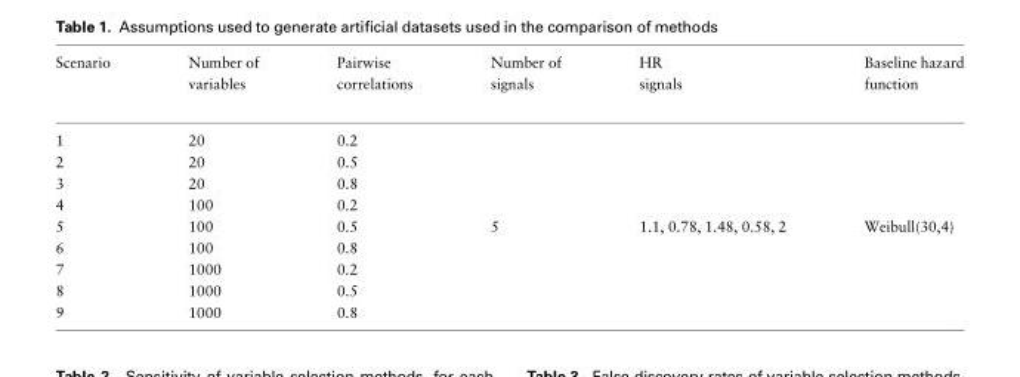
<table><thead><tr><td>Scenario</td><td>Number of variables</td><td>Pairwise correlations</td><td>Number of signals</td><td>HR signals</td><td>Baseline hazard function</td></tr></thead><tbody><tr><td>1</td><td>20</td><td>0.2</td><td rowspan="4"></td><td rowspan="4"></td><td rowspan="4"></td></tr><tr><td>2</td><td>20</td><td>0.5</td></tr><tr><td>3</td><td>20</td><td>0.8</td></tr><tr><td>4</td><td>100</td><td>0.2</td></tr><tr><td>5</td><td>100</td><td>0.5</td><td rowspan="5">5</td><td rowspan="5">1.1, 0.78, 1.48, 0.58, 2</td><td rowspan="5">Weibull(30,4)</td></tr><tr><td>6</td><td>100</td><td>0.8</td></tr><tr><td>7</td><td>1000</td><td>0.2</td></tr><tr><td>8</td><td>1000</td><td>0.5</td></tr><tr><td>9</td><td>1000</td><td>0.8</td></tr></tbody></table>